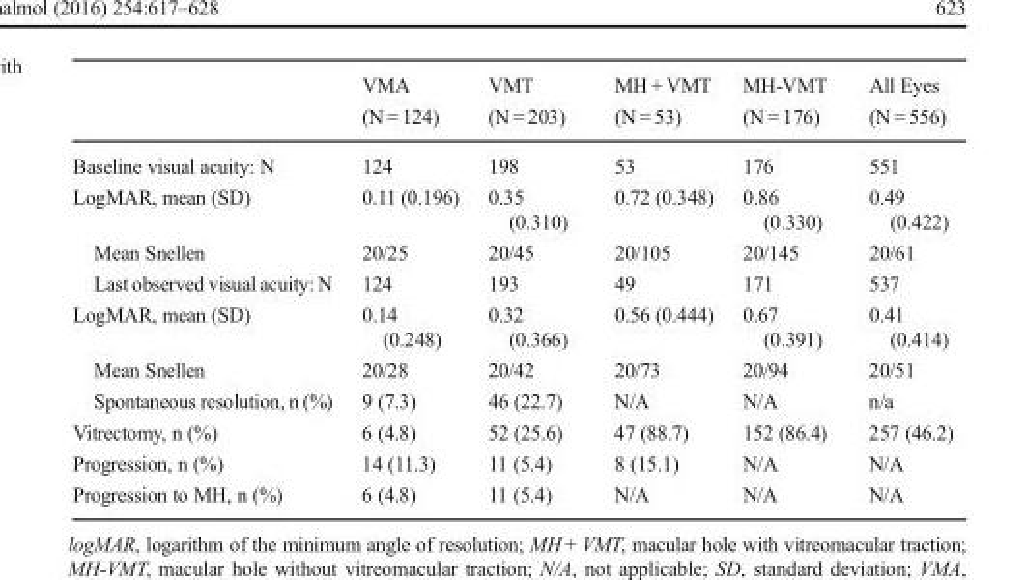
<table><thead><tr><td></td><td>VMA (N = 124)</td><td>VMT (N = 203)</td><td>MH + VMT (N = 53)</td><td>MH-VMT (N = 176)</td><td>All Eyes (N = 556)</td></tr></thead><tbody><tr><td>Baseline visual acuity: N</td><td>124</td><td>198</td><td>53</td><td>176</td><td>551</td></tr><tr><td>LogMAR, mean (SD)</td><td>0.11 (0.196)</td><td>0.35 (0.310)</td><td>0.72 (0.348)</td><td>0.86 (0.330)</td><td>0.49 (0.422)</td></tr><tr><td>Mean Snellen</td><td>20/25</td><td>20/45</td><td>20/105</td><td>20/145</td><td>20/61</td></tr><tr><td>Last observed visual acuity: N</td><td>124</td><td>193</td><td>49</td><td>171</td><td>537</td></tr><tr><td>LogMAR, mean (SD)</td><td>0.14 (0.248)</td><td>0.32 (0.366)</td><td>0.56 (0.444)</td><td>0.67 (0.391)</td><td>0.41 (0.414)</td></tr><tr><td>Mean Snellen</td><td>20/28</td><td>20/42</td><td>20/73</td><td>20/94</td><td>20/51</td></tr><tr><td>Spontaneous resolution, n (%)</td><td>9 (7.3)</td><td>46 (22.7)</td><td>N/A</td><td>N/A</td><td>n/a</td></tr><tr><td>Vitrectomy, n (%)</td><td>6 (4.8)</td><td>52 (25.6)</td><td>47 (88.7)</td><td>152 (86.4)</td><td>257 (46.2)</td></tr><tr><td>Progression, n (%)</td><td>14 (11.3)</td><td>11 (5.4)</td><td>8 (15.1)</td><td>N/A</td><td>N/A</td></tr><tr><td>Progression to MH, n (%)</td><td>6 (4.8)</td><td>11 (5.4)</td><td>N/A</td><td>N/A</td><td>N/A</td></tr></tbody></table>